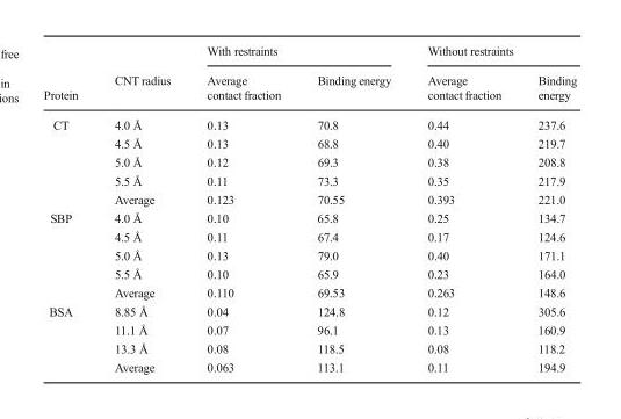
<table><thead><tr><td rowspan="2">Protein</td><td rowspan="2">CNT radius</td><td colspan="2">With restraints</td><td colspan="2">Without restraints</td></tr><tr><td>Average contact fraction</td><td>Binding energy</td><td>Average contact fraction</td><td>Binding energy</td></tr></thead><tbody><tr><td rowspan="5">CT</td><td>4.0 Å</td><td>0.13</td><td>70.8</td><td>0.44</td><td>237.6</td></tr><tr><td>4.5 Å</td><td>0.13</td><td>68.8</td><td>0.40</td><td>219.7</td></tr><tr><td>5.0 Å</td><td>0.12</td><td>69.3</td><td>0.38</td><td>208.8</td></tr><tr><td>5.5 Å</td><td>0.11</td><td>73.3</td><td>0.35</td><td>217.9</td></tr><tr><td>Average</td><td>0.123</td><td>70.55</td><td>0.393</td><td>221.0</td></tr><tr><td rowspan="5">SBP</td><td>4.0 Å</td><td>0.10</td><td>65.8</td><td>0.25</td><td>134.7</td></tr><tr><td>4.5 Å</td><td>0.11</td><td>67.4</td><td>0.17</td><td>124.6</td></tr><tr><td>5.0 Å</td><td>0.13</td><td>79.0</td><td>0.40</td><td>171.1</td></tr><tr><td>5.5 Å</td><td>0.10</td><td>65.9</td><td>0.23</td><td>164.0</td></tr><tr><td>Average</td><td>0.110</td><td>69.53</td><td>0.263</td><td>148.6</td></tr><tr><td rowspan="4">BSA</td><td>8.85 Å</td><td>0.04</td><td>124.8</td><td>0.12</td><td>305.6</td></tr><tr><td>11.1 Å</td><td>0.07</td><td>96.1</td><td>0.13</td><td>160.9</td></tr><tr><td>13.3 Å</td><td>0.08</td><td>118.5</td><td>0.08</td><td>118.2</td></tr><tr><td>Average</td><td>0.063</td><td>113.1</td><td>0.11</td><td>194.9</td></tr></tbody></table>